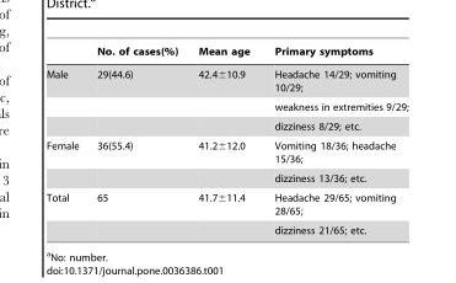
<table><thead><tr><td></td><td>No. of cases(%)</td><td>Mean age</td><td>Primary symptoms</td></tr></thead><tbody><tr><td rowspan="3">Male</td><td>29(44.6)</td><td>42.4±10.9</td><td>Headache 14/29; vomiting 10/29;</td></tr><tr><td></td><td></td><td>weakness in extremities 9/29;</td></tr><tr><td></td><td></td><td>dizziness 8/29; etc.</td></tr><tr><td rowspan="2">Female</td><td>36(55.4)</td><td>41.2±12.0</td><td>Vomiting 18/36; headache 15/36;</td></tr><tr><td></td><td></td><td>dizziness 13/36; etc.</td></tr><tr><td rowspan="2">Total</td><td>65</td><td>41.7±11.4</td><td>Headache 29/65; vomiting 28/65;</td></tr><tr><td></td><td></td><td>dizziness 21/65; etc.</td></tr></tbody></table>